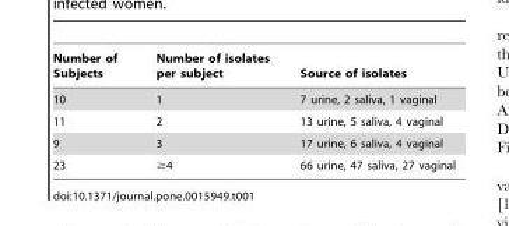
<table><thead><tr><td>Number of Subjects</td><td>Number of isolates per subject</td><td>Source of isolates</td></tr></thead><tbody><tr><td>10</td><td>1</td><td>7 urine, 2 saliva, 1 vaginal</td></tr><tr><td>11</td><td>2</td><td>13 urine, 5 saliva, 4 vaginal</td></tr><tr><td>9</td><td>3</td><td>17 urine, 6 saliva, 4 vaginal</td></tr><tr><td>23</td><td>≥4</td><td>66 urine, 47 saliva, 27 vaginal</td></tr></tbody></table>